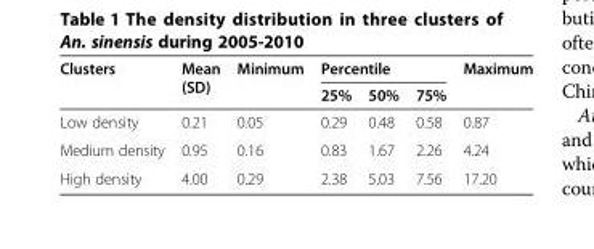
<table><thead><tr><td rowspan="2">Clusters</td><td rowspan="2">Mean (SD)</td><td rowspan="2">Minimum</td><td colspan="3">Percentile</td><td rowspan="2">Maximum</td></tr><tr><td>25%</td><td>50%</td><td>75%</td></tr></thead><tbody><tr><td>Low density</td><td>0.21</td><td>0.05</td><td>0.29</td><td>0.48</td><td>0.58</td><td>0.87</td></tr><tr><td>Medium density</td><td>0.95</td><td>0.16</td><td>0.83</td><td>1.67</td><td>2.26</td><td>4.24</td></tr><tr><td>High density</td><td>4.00</td><td>0.29</td><td>2.38</td><td>5.03</td><td>7.56</td><td>17.20</td></tr></tbody></table>